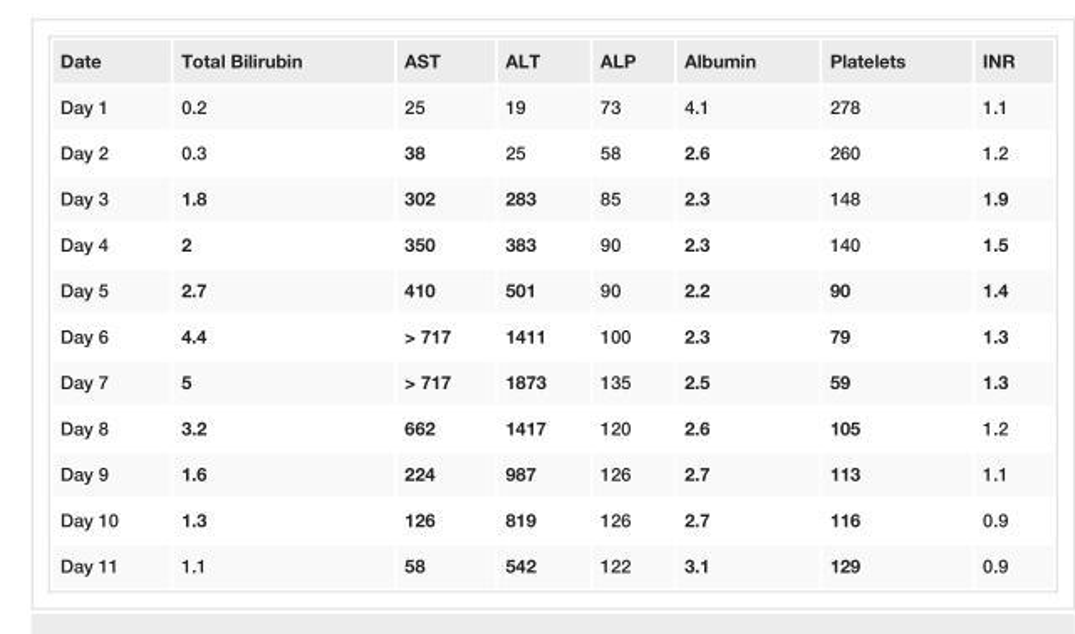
<table><tbody><tr><td>Date</td><td>Total Bilirubin</td><td>AST</td><td>ALT</td><td>ALP</td><td>Albumin</td><td>Platelets</td><td>INR</td></tr><tr><td>Day 1</td><td>0.2</td><td>25</td><td>19</td><td>73</td><td>4.1</td><td>278</td><td>1.1</td></tr><tr><td>Day 2</td><td>0.3</td><td>38</td><td>25</td><td>58</td><td>2.6</td><td>260</td><td>1.2</td></tr><tr><td>Day 3</td><td>1.8</td><td>302</td><td>283</td><td>85</td><td>2.3</td><td>148</td><td>1.9</td></tr><tr><td>Day 4</td><td>2</td><td>350</td><td>383</td><td>90</td><td>2.3</td><td>140</td><td>1.5</td></tr><tr><td>Day 5</td><td>2.7</td><td>410</td><td>501</td><td>90</td><td>2.2</td><td>90</td><td>1.4</td></tr><tr><td>Day 6</td><td>4.4</td><td>&gt; 717</td><td>1411</td><td>100</td><td>2.3</td><td>79</td><td>1.3</td></tr><tr><td>Day 7</td><td>5</td><td>&gt; 717</td><td>1873</td><td>135</td><td>2.5</td><td>59</td><td>1.3</td></tr><tr><td>Day 8</td><td>3.2</td><td>662</td><td>1417</td><td>120</td><td>2.6</td><td>105</td><td>1.2</td></tr><tr><td>Day 9</td><td>1.6</td><td>224</td><td>987</td><td>126</td><td>2.7</td><td>113</td><td>1.1</td></tr><tr><td>Day 10</td><td>1.3</td><td>126</td><td>819</td><td>126</td><td>2.7</td><td>116</td><td>0.9</td></tr><tr><td>Day 11</td><td>1.1</td><td>58</td><td>542</td><td>122</td><td>3.1</td><td>129</td><td>0.9</td></tr></tbody></table>